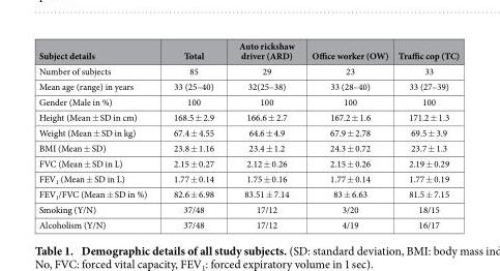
<table><thead><tr><td>Subject details</td><td>Total</td><td>Auto rickshaw driver (ARD)</td><td>Office worker (OW)</td><td>Traffic cop (TC)</td></tr></thead><tbody><tr><td>Number of subjects</td><td>85</td><td>29</td><td>23</td><td>33</td></tr><tr><td>Mean age (range) in years</td><td>33 (25–40)</td><td>32(25–38)</td><td>33 (28–40)</td><td>33 (27–39)</td></tr><tr><td>Gender (Male in %)</td><td>100</td><td>100</td><td>100</td><td>100</td></tr><tr><td>Height (Mean ± SD in cm)</td><td>168.5 ± 2.9</td><td>166.6 ± 2.7</td><td>167.2 ± 1.6</td><td>171.2 ± 1.3</td></tr><tr><td>Weight (Mean ± SD in kg)</td><td>67.4 ± 4.55</td><td>64.6 ± 4.9</td><td>67.9 ± 2.78</td><td>69.5 ± 3.9</td></tr><tr><td>BMI (Mean ± SD)</td><td>23.8 ± 1.16</td><td>23.4 ± 1.2</td><td>24.3 ± 0.72</td><td>23.7 ± 1.3</td></tr><tr><td>FVC (Mean ± SD in L)</td><td>2.15 ± 0.27</td><td>2.12 ± 0.26</td><td>2.15 ± 0.26</td><td>2.19 ± 0.29</td></tr><tr><td>FEV<sub>1</sub> (Mean ± SD in L)</td><td>1.77 ± 0.14</td><td>1.75 ± 0.16</td><td>1.77 ± 0.14</td><td>1.77 ± 0.19</td></tr><tr><td>FEV<sub>1</sub>/FVC (Mean ± SD in %)</td><td>82.6 ± 6.98</td><td>83.51 ± 7.14</td><td>83 ± 6.63</td><td>81.5 ± 7.15</td></tr><tr><td>Smoking (Y/N)</td><td>37/48</td><td>17/12</td><td>3/20</td><td>18/15</td></tr><tr><td>Alcoholism (Y/N)</td><td>37/48</td><td>17/12</td><td>4/19</td><td>16/17</td></tr></tbody></table>